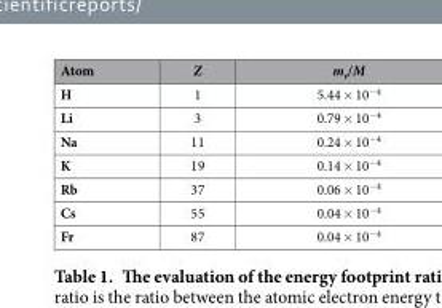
<table><thead><tr><td>Atom</td><td>Z</td><td>m<sub>e</sub>/M</td></tr></thead><tbody><tr><td>H</td><td>1</td><td>5.44 × 10<sup>−4</sup></td></tr><tr><td>Li</td><td>3</td><td>0.79 × 10<sup>−4</sup></td></tr><tr><td>Na</td><td>11</td><td>0.24 × 10<sup>−4</sup></td></tr><tr><td>K</td><td>19</td><td>0.14 × 10<sup>−4</sup></td></tr><tr><td>Rb</td><td>37</td><td>0.06 × 10<sup>−4</sup></td></tr><tr><td>Cs</td><td>55</td><td>0.04 × 10<sup>−4</sup></td></tr><tr><td>Fr</td><td>87</td><td>0.04 × 10<sup>−4</sup></td></tr></tbody></table>